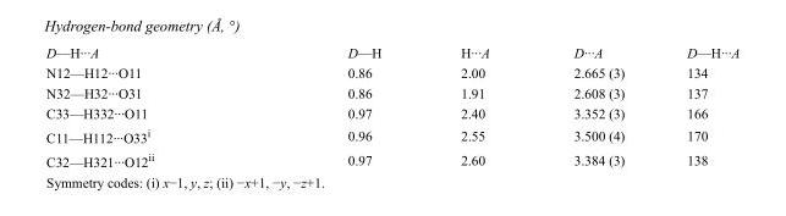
<table><tbody><tr><td>D—H···A</td><td>D—H</td><td>H···A</td><td>D···A</td><td>D—H···A</td></tr><tr><td>N12—H12···O11</td><td>0.86</td><td>2.00</td><td>2.665 (3)</td><td>134</td></tr><tr><td>N32—H32···O31</td><td>0.86</td><td>1.91</td><td>2.608 (3)</td><td>137</td></tr><tr><td>C33—H332···O11</td><td>0.97</td><td>2.40</td><td>3.352 (3)</td><td>166</td></tr><tr><td>C11—H112···O33<sup>i</sup></td><td>0.96</td><td>2.55</td><td>3.500 (4)</td><td>170</td></tr><tr><td>C32—H321···O12<sup>ii</sup></td><td>0.97</td><td>2.60</td><td>3.384 (3)</td><td>138</td></tr></tbody></table>